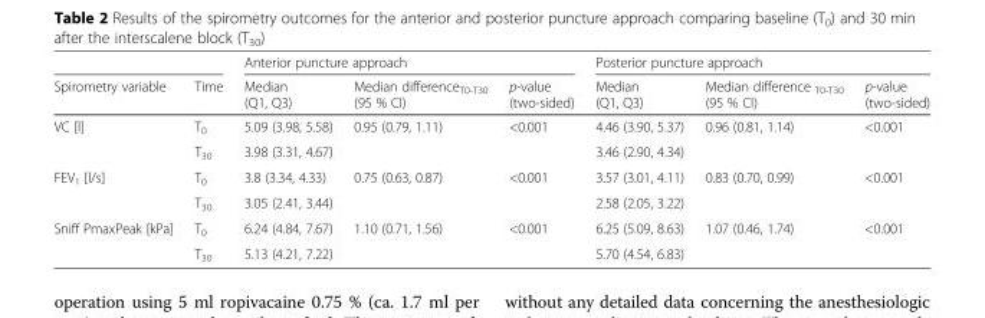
<table><thead><tr><td rowspan="2">Spirometry variable</td><td rowspan="2">Time</td><td colspan="3">Anterior puncture approach</td><td colspan="3">Posterior puncture approach</td></tr><tr><td>Median (Q1, Q3)</td><td>Median difference<sub>T0-T30</sub> (95 % CI)</td><td>p-value (two-sided)</td><td>Median (Q1, Q3)</td><td>Median difference <sub>T0-T30</sub> (95 % CI)</td><td>p-value (two-sided)</td></tr></thead><tbody><tr><td rowspan="2">VC [l]</td><td>T<sub>0</sub></td><td>5.09 (3.98, 5.58)</td><td>0.95 (0.79, 1.11)</td><td>&lt;0.001</td><td>4.46 (3.90, 5.37)</td><td>0.96 (0.81, 1.14)</td><td>&lt;0.001</td></tr><tr><td>T<sub>30</sub></td><td>3.98 (3.31, 4.67)</td><td></td><td></td><td>3.46 (2.90, 4.34)</td><td></td><td></td></tr><tr><td rowspan="2">FEV<sub>1</sub> [l/s]</td><td>T<sub>0</sub></td><td>3.8 (3.34, 4.33)</td><td>0.75 (0.63, 0.87)</td><td>&lt;0.001</td><td>3.57 (3.01, 4.11)</td><td>0.83 (0.70, 0.99)</td><td>&lt;0.001</td></tr><tr><td>T<sub>30</sub></td><td>3.05 (2.41, 3.44)</td><td></td><td></td><td>2.58 (2.05, 3.22)</td><td></td><td></td></tr><tr><td rowspan="2">Sniff PmaxPeak [kPa]</td><td>T<sub>0</sub></td><td>6.24 (4.84, 7.67)</td><td>1.10 (0.71, 1.56)</td><td>&lt;0.001</td><td>6.25 (5.09, 8.63)</td><td>1.07 (0.46, 1.74)</td><td>&lt;0.001</td></tr><tr><td>T<sub>30</sub></td><td>5.13 (4.21, 7.22)</td><td></td><td></td><td>5.70 (4.54, 6.83)</td><td></td><td></td></tr></tbody></table>